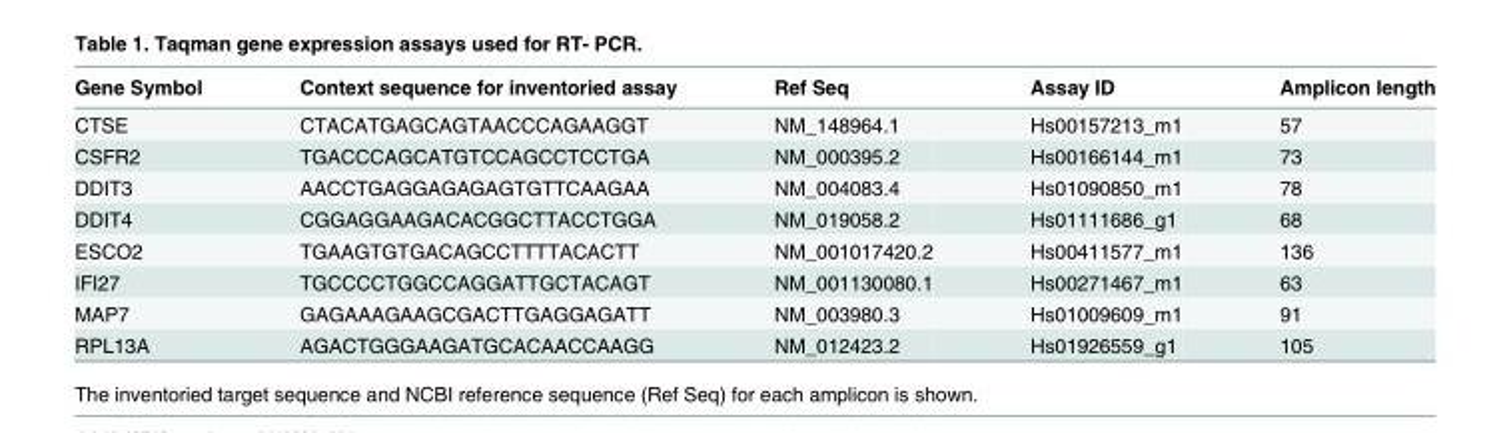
<table><thead><tr><td>Gene Symbol</td><td>Context sequence for inventoried assay</td><td>Ref Seq</td><td>Assay ID</td><td>Amplicon length</td></tr></thead><tbody><tr><td>CTSE</td><td>CTACATGAGCAGTAACCCAGAAGGT</td><td>NM_148964.1</td><td>Hs00157213_m1</td><td>57</td></tr><tr><td>CSFR2</td><td>TGACCCAGCATGTCCAGCCTCCTGA</td><td>NM_000395.2</td><td>Hs00166144_m1</td><td>73</td></tr><tr><td>DDIT3</td><td>AACCTGAGGAGAGAGTGTTCAAGAA</td><td>NM_004083.4</td><td>Hs01090850_m1</td><td>78</td></tr><tr><td>DDIT4</td><td>CGGAGGAAGACACGGCTTACCTGGA</td><td>NM_019058.2</td><td>Hs01111686_g1</td><td>68</td></tr><tr><td>ESCO2</td><td>TGAAGTGTGACAGCCTTTTACACTT</td><td>NM_001017420.2</td><td>Hs00411577_m1</td><td>136</td></tr><tr><td>IFI27</td><td>TGCCCCTGGCCAGGATTGCTACAGT</td><td>NM_001130080.1</td><td>Hs00271467_m1</td><td>63</td></tr><tr><td>MAP7</td><td>GAGAAAGAAGCGACTTGAGGAGATT</td><td>NM_003980.3</td><td>Hs01009609_m1</td><td>91</td></tr><tr><td>RPL13A</td><td>AGACTGGGAAGATGCACAACCAAGG</td><td>NM_012423.2</td><td>Hs01926559_g1</td><td>105</td></tr></tbody></table>